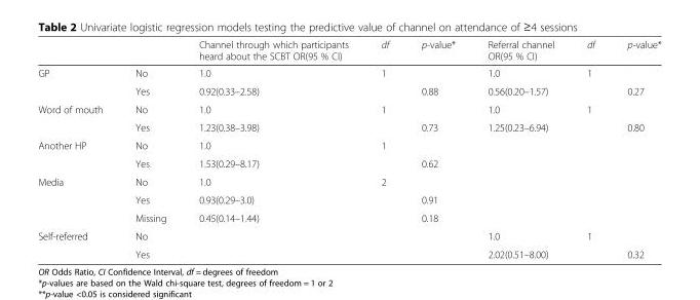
<table><thead><tr><td></td><td></td><td>Channel through which participants heard about the SCBT OR(95 % CI)</td><td>df</td><td>p-value*</td><td>Referral channel OR(95 % CI)</td><td>df</td><td>p-value*</td></tr></thead><tbody><tr><td rowspan="2">GP</td><td>No</td><td>1.0</td><td>1</td><td></td><td>1.0</td><td>1</td><td></td></tr><tr><td>Yes</td><td>0.92(0.33–2.58)</td><td></td><td>0.88</td><td>0.56(0.20–1.57)</td><td></td><td>0.27</td></tr><tr><td rowspan="2">Word of mouth</td><td>No</td><td>1.0</td><td>1</td><td></td><td>1.0</td><td>1</td><td></td></tr><tr><td>Yes</td><td>1.23(0.38–3.98)</td><td></td><td>0.73</td><td>1.25(0.23–6.94)</td><td></td><td>0.80</td></tr><tr><td rowspan="2">Another HP</td><td>No</td><td>1.0</td><td>1</td><td></td><td></td><td></td><td></td></tr><tr><td>Yes</td><td>1.53(0.29–8.17)</td><td></td><td>0.62</td><td></td><td></td><td></td></tr><tr><td rowspan="3">Media</td><td>No</td><td>1.0</td><td>2</td><td></td><td></td><td></td><td></td></tr><tr><td>Yes</td><td>0.93(0.29–3.0)</td><td></td><td>0.91</td><td></td><td></td><td></td></tr><tr><td>Missing</td><td>0.45(0.14–1.44)</td><td></td><td>0.18</td><td></td><td></td><td></td></tr><tr><td rowspan="2">Self-referred</td><td>No</td><td></td><td></td><td></td><td>1.0</td><td>1</td><td></td></tr><tr><td>Yes</td><td></td><td></td><td></td><td>2.02(0.51–8.00)</td><td></td><td>0.32</td></tr></tbody></table>